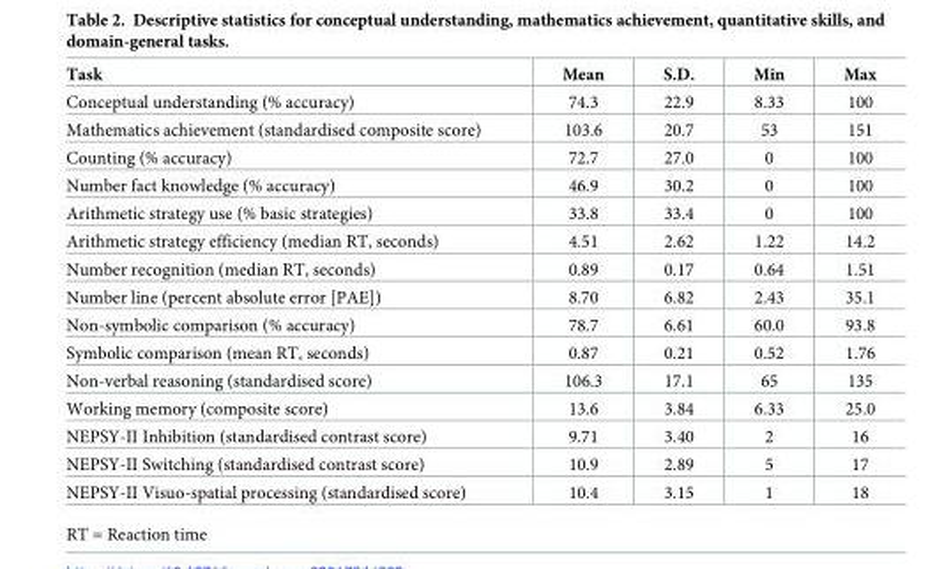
<table><thead><tr><td>Task</td><td>Mean</td><td>S.D.</td><td>Min</td><td>Max</td></tr></thead><tbody><tr><td>Conceptual understanding (% accuracy)</td><td>74.3</td><td>22.9</td><td>8.33</td><td>100</td></tr><tr><td>Mathematics achievement (standardised composite score)</td><td>103.6</td><td>20.7</td><td>53</td><td>151</td></tr><tr><td>Counting (% accuracy)</td><td>72.7</td><td>27.0</td><td>0</td><td>100</td></tr><tr><td>Number fact knowledge (% accuracy)</td><td>46.9</td><td>30.2</td><td>0</td><td>100</td></tr><tr><td>Arithmetic strategy use (% basic strategies)</td><td>33.8</td><td>33.4</td><td>0</td><td>100</td></tr><tr><td>Arithmetic strategy efficiency (median RT, seconds)</td><td>4.51</td><td>2.62</td><td>1.22</td><td>14.2</td></tr><tr><td>Number recognition (median RT, seconds)</td><td>0.89</td><td>0.17</td><td>0.64</td><td>1.51</td></tr><tr><td>Number line (percent absolute error [PAE])</td><td>8.70</td><td>6.82</td><td>2.43</td><td>35.1</td></tr><tr><td>Non-symbolic comparison (% accuracy)</td><td>78.7</td><td>6.61</td><td>60.0</td><td>93.8</td></tr><tr><td>Symbolic comparison (mean RT, seconds)</td><td>0.87</td><td>0.21</td><td>0.52</td><td>1.76</td></tr><tr><td>Non-verbal reasoning (standardised score)</td><td>106.3</td><td>17.1</td><td>65</td><td>135</td></tr><tr><td>Working memory (composite score)</td><td>13.6</td><td>3.84</td><td>6.33</td><td>25.0</td></tr><tr><td>NEPSY-II Inhibition (standardised contrast score)</td><td>9.71</td><td>3.40</td><td>2</td><td>16</td></tr><tr><td>NEPSY-II Switching (standardised contrast score)</td><td>10.9</td><td>2.89</td><td>5</td><td>17</td></tr><tr><td>NEPSY-II Visuo-spatial processing (standardised score)</td><td>10.4</td><td>3.15</td><td>1</td><td>18</td></tr></tbody></table>